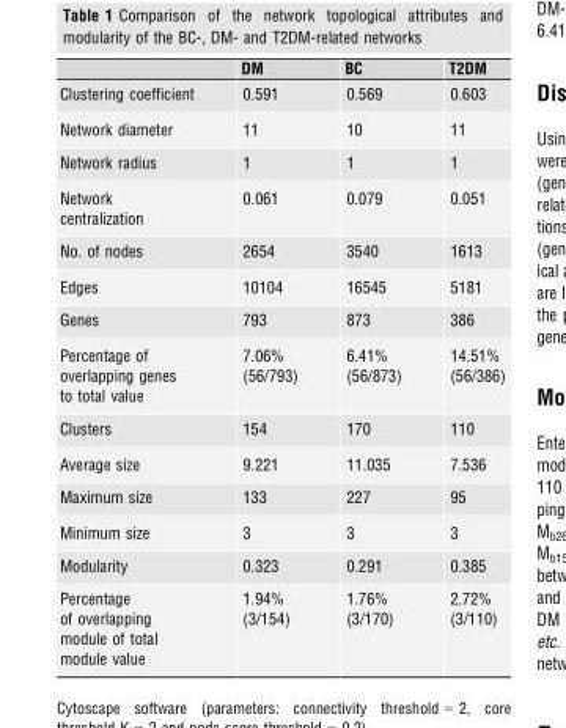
<table><thead><tr><td></td><td>DM</td><td>BC</td><td>T2DM</td></tr></thead><tbody><tr><td>Clustering coefficient</td><td>0.591</td><td>0.569</td><td>0.603</td></tr><tr><td>Network diameter</td><td>11</td><td>10</td><td>11</td></tr><tr><td>Network radius</td><td>1</td><td>1</td><td>1</td></tr><tr><td>Network centralization</td><td>0.061</td><td>0.079</td><td>0.051</td></tr><tr><td>No. of nodes</td><td>2654</td><td>3540</td><td>1613</td></tr><tr><td>Edges</td><td>10104</td><td>16545</td><td>5181</td></tr><tr><td>Genes</td><td>793</td><td>873</td><td>386</td></tr><tr><td>Percentage of overlapping genes to total value</td><td>7.06% (56/793)</td><td>6.41% (56/873)</td><td>14.51% (56/386)</td></tr><tr><td>Clusters</td><td>154</td><td>170</td><td>110</td></tr><tr><td>Average size</td><td>9.221</td><td>11.035</td><td>7.536</td></tr><tr><td>Maximum size</td><td>133</td><td>227</td><td>95</td></tr><tr><td>Minimum size</td><td>3</td><td>3</td><td>3</td></tr><tr><td>Modularity</td><td>0.323</td><td>0.291</td><td>0.385</td></tr><tr><td>Percentage of overlapping module of total module value</td><td>1.94% (3/154)</td><td>1.76% (3/170)</td><td>2.72% (3/110)</td></tr></tbody></table>